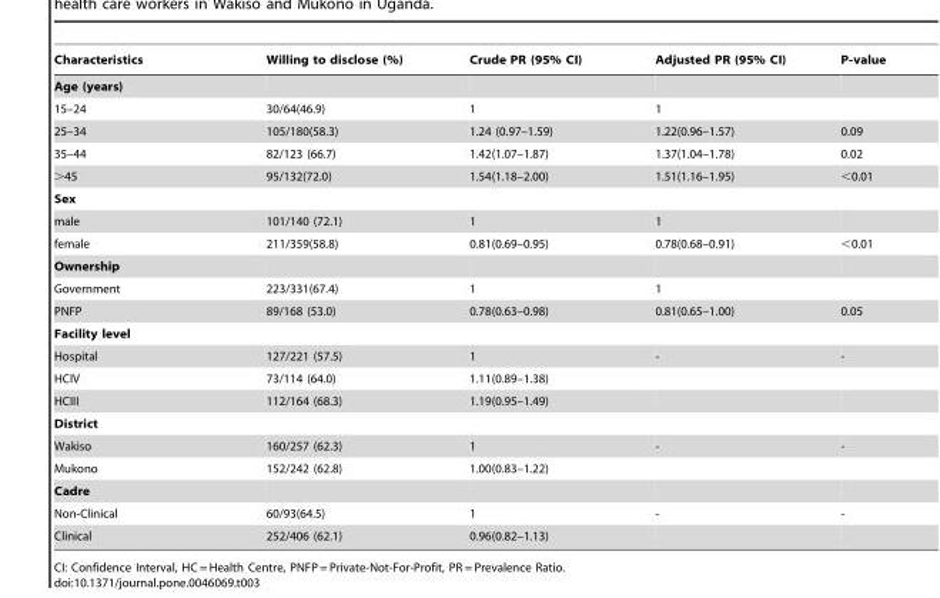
<table><thead><tr><td>Characteristics</td><td>Willing to disclose (%)</td><td>Crude PR (95% CI)</td><td>Adjusted PR (95% CI)</td><td>P-value</td></tr></thead><tbody><tr><td colspan="5">Age (years)</td></tr><tr><td>15–24</td><td>30/64(46.9)</td><td>1</td><td>1</td><td></td></tr><tr><td>25–34</td><td>105/180(58.3)</td><td>1.24 (0.97–1.59)</td><td>1.22(0.96–1.57)</td><td>0.09</td></tr><tr><td>35–44</td><td>82/123 (66.7)</td><td>1.42(1.07–1.87)</td><td>1.37(1.04–1.78)</td><td>0.02</td></tr><tr><td>&gt;45</td><td>95/132(72.0)</td><td>1.54(1.18–2.00)</td><td>1.51(1.16–1.95)</td><td>&lt;0.01</td></tr><tr><td colspan="5">Sex</td></tr><tr><td>male</td><td>101/140 (72.1)</td><td>1</td><td>1</td><td></td></tr><tr><td>female</td><td>211/359(58.8)</td><td>0.81(0.69–0.95)</td><td>0.78(0.68–0.91)</td><td>&lt;0.01</td></tr><tr><td colspan="5">Ownership</td></tr><tr><td>Government</td><td>223/331(67.4)</td><td>1</td><td>1</td><td></td></tr><tr><td>PNFP</td><td>89/168 (53.0)</td><td>0.78(0.63–0.98)</td><td>0.81(0.65–1.00)</td><td>0.05</td></tr><tr><td colspan="5">Facility level</td></tr><tr><td>Hospital</td><td>127/221 (57.5)</td><td>1</td><td>-</td><td>-</td></tr><tr><td>HCIV</td><td>73/114 (64.0)</td><td>1.11(0.89–1.38)</td><td></td><td></td></tr><tr><td>HCIII</td><td>112/164 (68.3)</td><td>1.19(0.95–1.49)</td><td></td><td></td></tr><tr><td colspan="5">District</td></tr><tr><td>Wakiso</td><td>160/257 (62.3)</td><td>1</td><td>-</td><td>-</td></tr><tr><td>Mukono</td><td>152/242 (62.8)</td><td>1.00(0.83–1.22)</td><td></td><td></td></tr><tr><td colspan="5">Cadre</td></tr><tr><td>Non-Clinical</td><td>60/93(64.5)</td><td>1</td><td>-</td><td>-</td></tr><tr><td>Clinical</td><td>252/406 (62.1)</td><td>0.96(0.82–1.13)</td><td></td><td></td></tr></tbody></table>